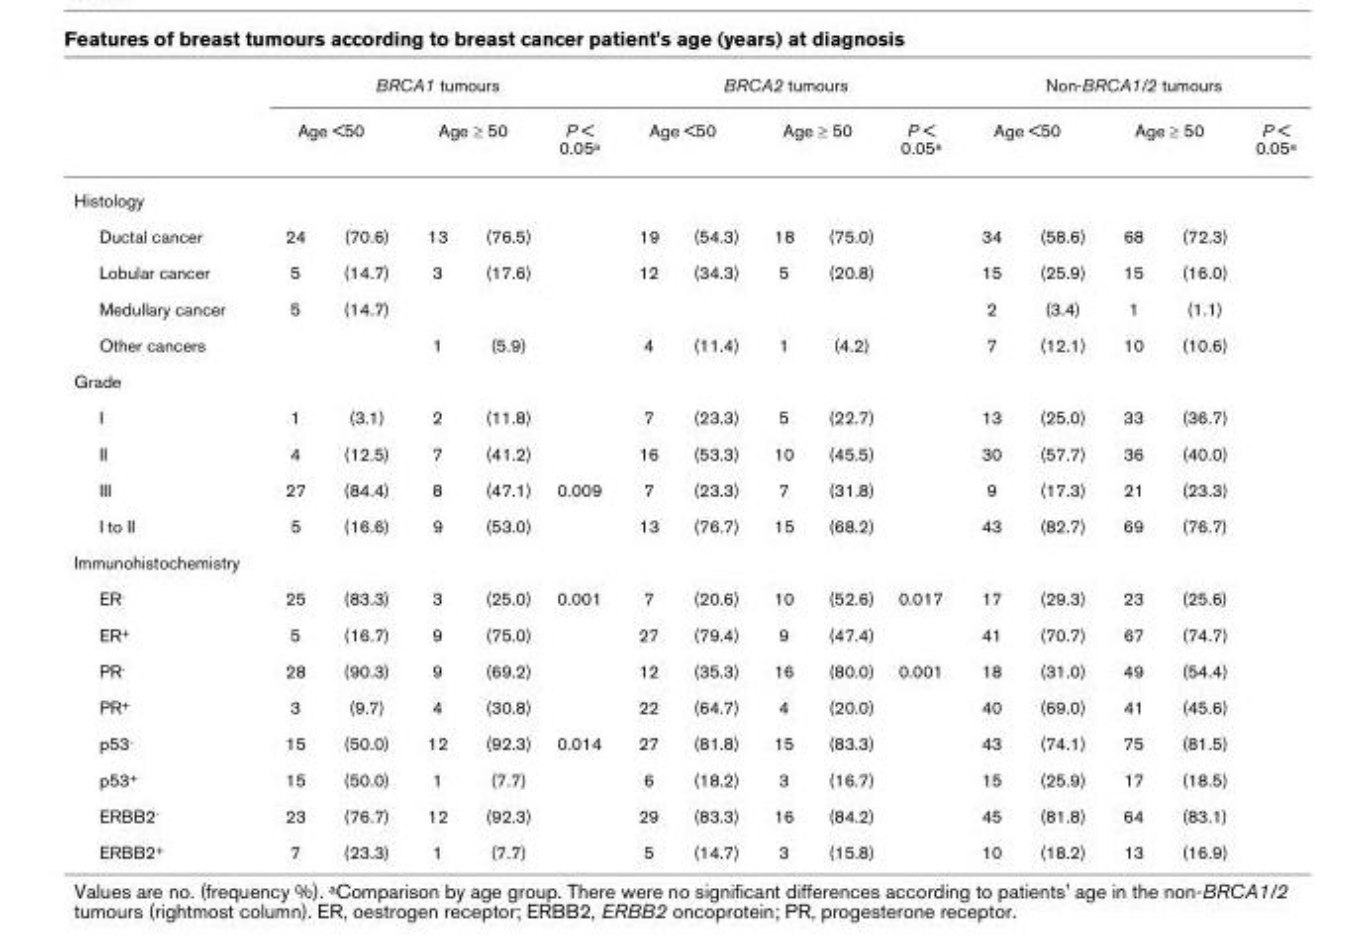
<table><thead><tr><td rowspan="3">Histology</td><td colspan="5">BRCA1 tumours</td><td colspan="5">BRCA2 tumours</td><td colspan="5">Non-BRCA1/2 tumours</td></tr><tr><td colspan="2">Age &lt;50</td><td colspan="2">Age ≥ 50</td><td rowspan="2">P &lt; 0.05a</td><td colspan="2">Age &lt;50</td><td colspan="2">Age ≥ 50</td><td rowspan="2">P &lt; 0.05a</td><td colspan="2">Age &lt;50</td><td colspan="2">Age ≥ 50</td><td rowspan="2">P &lt; 0.05a</td></tr><tr><td></td><td></td><td></td><td></td><td></td><td></td><td></td><td></td><td></td><td></td><td></td><td></td></tr></thead><tbody><tr><td>Ductal cancer</td><td>24</td><td>(70.6)</td><td>13</td><td>(76.5)</td><td></td><td>19</td><td>(54.3)</td><td>18</td><td>(75.0)</td><td></td><td>34</td><td>(58.6)</td><td>68</td><td>(72.3)</td><td></td></tr><tr><td>Lobular cancer</td><td>5</td><td>(14.7)</td><td>3</td><td>(17.6)</td><td></td><td>12</td><td>(34.3)</td><td>5</td><td>(20.8)</td><td></td><td>15</td><td>(25.9)</td><td>15</td><td>(16.0)</td><td></td></tr><tr><td>Medullary cancer</td><td>5</td><td>(14.7)</td><td></td><td></td><td></td><td></td><td></td><td></td><td></td><td></td><td>2</td><td>(3.4)</td><td>1</td><td>(1.1)</td><td></td></tr><tr><td>Other cancers</td><td></td><td></td><td>1</td><td>(5.9)</td><td></td><td>4</td><td>(11.4)</td><td>1</td><td>(4.2)</td><td></td><td>7</td><td>(12.1)</td><td>10</td><td>(10.6)</td><td></td></tr><tr><td colspan="16">Grade</td></tr><tr><td>I</td><td>1</td><td>(3.1)</td><td>2</td><td>(11.8)</td><td></td><td>7</td><td>(23.3)</td><td>5</td><td>(22.7)</td><td></td><td>13</td><td>(25.0)</td><td>33</td><td>(36.7)</td><td></td></tr><tr><td>II</td><td>4</td><td>(12.5)</td><td>7</td><td>(41.2)</td><td></td><td>16</td><td>(53.3)</td><td>10</td><td>(45.5)</td><td></td><td>30</td><td>(57.7)</td><td>36</td><td>(40.0)</td><td></td></tr><tr><td>III</td><td>27</td><td>(84.4)</td><td>8</td><td>(47.1)</td><td>0.009</td><td>7</td><td>(23.3)</td><td>7</td><td>(31.8)</td><td></td><td>9</td><td>(17.3)</td><td>21</td><td>(23.3)</td><td></td></tr><tr><td>I to II</td><td>5</td><td>(16.6)</td><td>9</td><td>(53.0)</td><td></td><td>13</td><td>(76.7)</td><td>15</td><td>(68.2)</td><td></td><td>43</td><td>(82.7)</td><td>69</td><td>(76.7)</td><td></td></tr><tr><td colspan="16">Immunohistochemistry</td></tr><tr><td>ER-</td><td>25</td><td>(83.3)</td><td>3</td><td>(25.0)</td><td>0.001</td><td>7</td><td>(20.6)</td><td>10</td><td>(52.6)</td><td>0.017</td><td>17</td><td>(29.3)</td><td>23</td><td>(25.6)</td><td></td></tr><tr><td>ER+</td><td>5</td><td>(16.7)</td><td>9</td><td>(75.0)</td><td></td><td>27</td><td>(79.4)</td><td>9</td><td>(47.4)</td><td></td><td>41</td><td>(70.7)</td><td>67</td><td>(74.7)</td><td></td></tr><tr><td>PR-</td><td>28</td><td>(90.3)</td><td>9</td><td>(69.2)</td><td></td><td>12</td><td>(35.3)</td><td>16</td><td>(80.0)</td><td>0.001</td><td>18</td><td>(31.0)</td><td>49</td><td>(54.4)</td><td></td></tr><tr><td>PR+</td><td>3</td><td>(9.7)</td><td>4</td><td>(30.8)</td><td></td><td>22</td><td>(64.7)</td><td>4</td><td>(20.0)</td><td></td><td>40</td><td>(69.0)</td><td>41</td><td>(45.6)</td><td></td></tr><tr><td>p53-</td><td>15</td><td>(50.0)</td><td>12</td><td>(92.3)</td><td>0.014</td><td>27</td><td>(81.8)</td><td>15</td><td>(83.3)</td><td></td><td>43</td><td>(74.1)</td><td>75</td><td>(81.5)</td><td></td></tr><tr><td>p53+</td><td>15</td><td>(50.0)</td><td>1</td><td>(7.7)</td><td></td><td>6</td><td>(18.2)</td><td>3</td><td>(16.7)</td><td></td><td>15</td><td>(25.9)</td><td>17</td><td>(18.5)</td><td></td></tr><tr><td>ERBB2-</td><td>23</td><td>(76.7)</td><td>12</td><td>(92.3)</td><td></td><td>29</td><td>(83.3)</td><td>16</td><td>(84.2)</td><td></td><td>45</td><td>(81.8)</td><td>64</td><td>(83.1)</td><td></td></tr><tr><td>ERBB2+</td><td>7</td><td>(23.3)</td><td>1</td><td>(7.7)</td><td></td><td>5</td><td>(14.7)</td><td>3</td><td>(15.8)</td><td></td><td>10</td><td>(18.2)</td><td>13</td><td>(16.9)</td><td></td></tr></tbody></table>